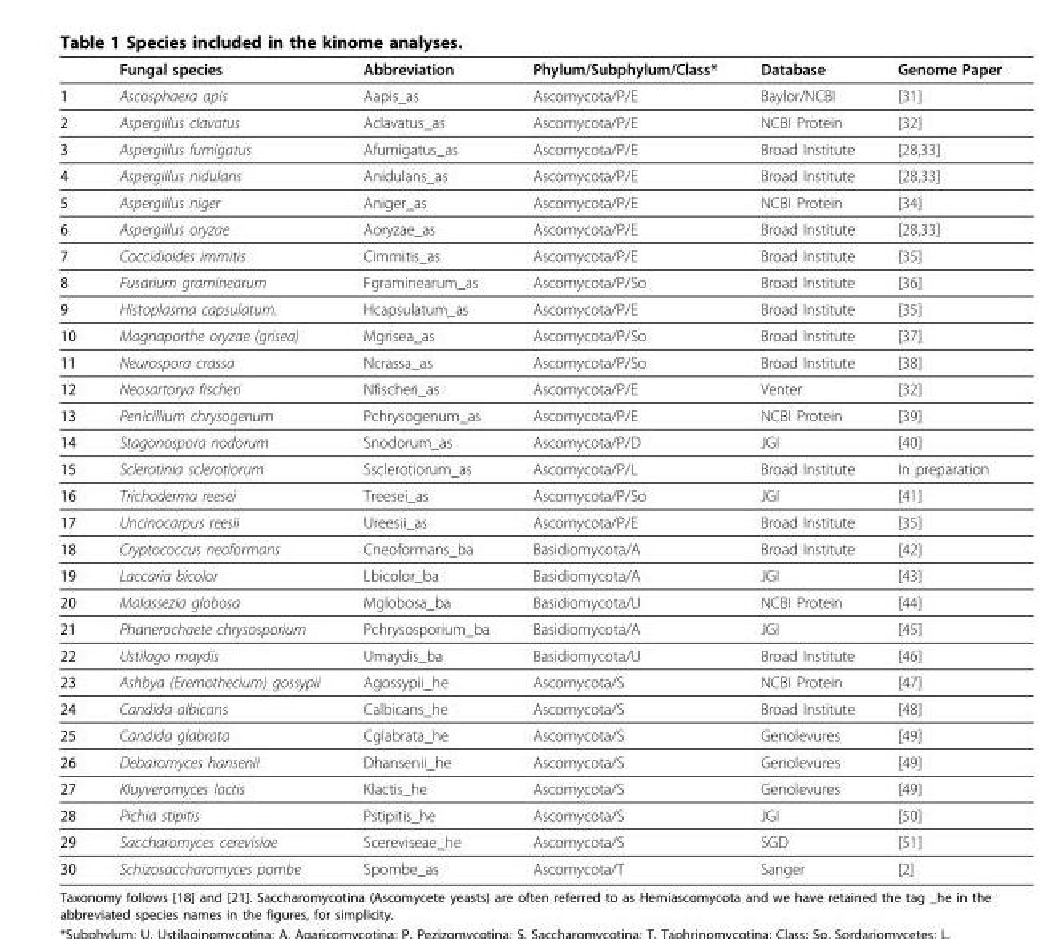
<table><thead><tr><td></td><td>Fungal species</td><td>Abbreviation</td><td>Phylum/Subphylum/Class*</td><td>Database</td><td>Genome Paper</td></tr></thead><tbody><tr><td>1</td><td>Ascosphaera apis</td><td>Aapis_as</td><td>Ascomycota/P/E</td><td>Baylor/NCBI</td><td>[31]</td></tr><tr><td>2</td><td>Aspergillus clavatus</td><td>Aclavatus_as</td><td>Ascomycota/P/E</td><td>NCBI Protein</td><td>[32]</td></tr><tr><td>3</td><td>Aspergillus fumigatus</td><td>Afumigatus_as</td><td>Ascomycota/P/E</td><td>Broad Institute</td><td>[28,33]</td></tr><tr><td>4</td><td>Aspergillus nidulans</td><td>Anidulans_as</td><td>Ascomycota/P/E</td><td>Broad Institute</td><td>[28,33]</td></tr><tr><td>5</td><td>Aspergillus niger</td><td>Aniger_as</td><td>Ascomycota/P/E</td><td>NCBI Protein</td><td>[34]</td></tr><tr><td>6</td><td>Aspergillus oryzae</td><td>Aoryzae_as</td><td>Ascomycota/P/E</td><td>Broad Institute</td><td>[28,33]</td></tr><tr><td>7</td><td>Coccidioides immitis</td><td>Cimmitis_as</td><td>Ascomycota/P/E</td><td>Broad Institute</td><td>[35]</td></tr><tr><td>8</td><td>Fusarium graminearum</td><td>Fgraminearum_as</td><td>Ascomycota/P/So</td><td>Broad Institute</td><td>[36]</td></tr><tr><td>9</td><td>Histoplasma capsulatum.</td><td>Hcapsulatum_as</td><td>Ascomycota/P/E</td><td>Broad Institute</td><td>[35]</td></tr><tr><td>10</td><td>Magnaporthe oryzae (grisea)</td><td>Mgrisea_as</td><td>Ascomycota/P/So</td><td>Broad Institute</td><td>[37]</td></tr><tr><td>11</td><td>Neurospora crassa</td><td>Ncrassa_as</td><td>Ascomycota/P/So</td><td>Broad Institute</td><td>[38]</td></tr><tr><td>12</td><td>Neosartorya fischeri</td><td>Nfischeri_as</td><td>Ascomycota/P/E</td><td>Venter</td><td>[32]</td></tr><tr><td>13</td><td>Penicillium chrysogenum</td><td>Pchrysogenum_as</td><td>Ascomycota/P/E</td><td>NCBI Protein</td><td>[39]</td></tr><tr><td>14</td><td>Stagonospora nodorum</td><td>Snodorum_as</td><td>Ascomycota/P/D</td><td>JGI</td><td>[40]</td></tr><tr><td>15</td><td>Sclerotinia sclerotiorum</td><td>Ssclerotiorum_as</td><td>Ascomycota/P/L</td><td>Broad Institute</td><td>In preparation</td></tr><tr><td>16</td><td>Trichoderma reesei</td><td>Treesei_as</td><td>Ascomycota/P/So</td><td>JGI</td><td>[41]</td></tr><tr><td>17</td><td>Uncinocarpus reesii</td><td>Ureesii_as</td><td>Ascomycota/P/E</td><td>Broad Institute</td><td>[35]</td></tr><tr><td>18</td><td>Cryptococcus neoformans</td><td>Cneoformans_ba</td><td>Basidiomycota/A</td><td>Broad Institute</td><td>[42]</td></tr><tr><td>19</td><td>Laccaria bicolor</td><td>Lbicolor_ba</td><td>Basidiomycota/A</td><td>JGI</td><td>[43]</td></tr><tr><td>20</td><td>Malassezia globosa</td><td>Mglobosa_ba</td><td>Basidiomycota/U</td><td>NCBI Protein</td><td>[44]</td></tr><tr><td>21</td><td>Phanerochaete chrysosporium</td><td>Pchrysosporium_ba</td><td>Basidiomycota/A</td><td>JGI</td><td>[45]</td></tr><tr><td>22</td><td>Ustilago maydis</td><td>Umaydis_ba</td><td>Basidiomycota/U</td><td>Broad Institute</td><td>[46]</td></tr><tr><td>23</td><td>Ashbya (Eremothecium) gossypii</td><td>Agossypii_he</td><td>Ascomycota/S</td><td>NCBI Protein</td><td>[47]</td></tr><tr><td>24</td><td>Candida albicans</td><td>Calbicans_he</td><td>Ascomycota/S</td><td>Broad Institute</td><td>[48]</td></tr><tr><td>25</td><td>Candida glabrata</td><td>Cglabrata_he</td><td>Ascomycota/S</td><td>Genolevures</td><td>[49]</td></tr><tr><td>26</td><td>Debaromyces hansenii</td><td>Dhansenii_he</td><td>Ascomycota/S</td><td>Genolevures</td><td>[49]</td></tr><tr><td>27</td><td>Kluyveromyces lactis</td><td>Klactis_he</td><td>Ascomycota/S</td><td>Genolevures</td><td>[49]</td></tr><tr><td>28</td><td>Pichia stipitis</td><td>Pstipitis_he</td><td>Ascomycota/S</td><td>JGI</td><td>[50]</td></tr><tr><td>29</td><td>Saccharomyces cerevisiae</td><td>Scereviseae_he</td><td>Ascomycota/S</td><td>SGD</td><td>[51]</td></tr><tr><td>30</td><td>Schizosaccharomyces pombe</td><td>Spombe_as</td><td>Ascomycota/T</td><td>Sanger</td><td>[2]</td></tr></tbody></table>